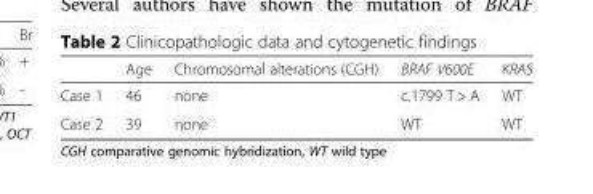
<table><thead><tr><td></td><td>Age</td><td>Chromosomal alterations (CGH)</td><td>BRAF V600E</td><td>KRAS</td></tr></thead><tbody><tr><td>Case 1</td><td>46</td><td>none</td><td>c.1799 T &gt; A</td><td>WT</td></tr><tr><td>Case 2</td><td>39</td><td>none</td><td>WT</td><td>WT</td></tr></tbody></table>